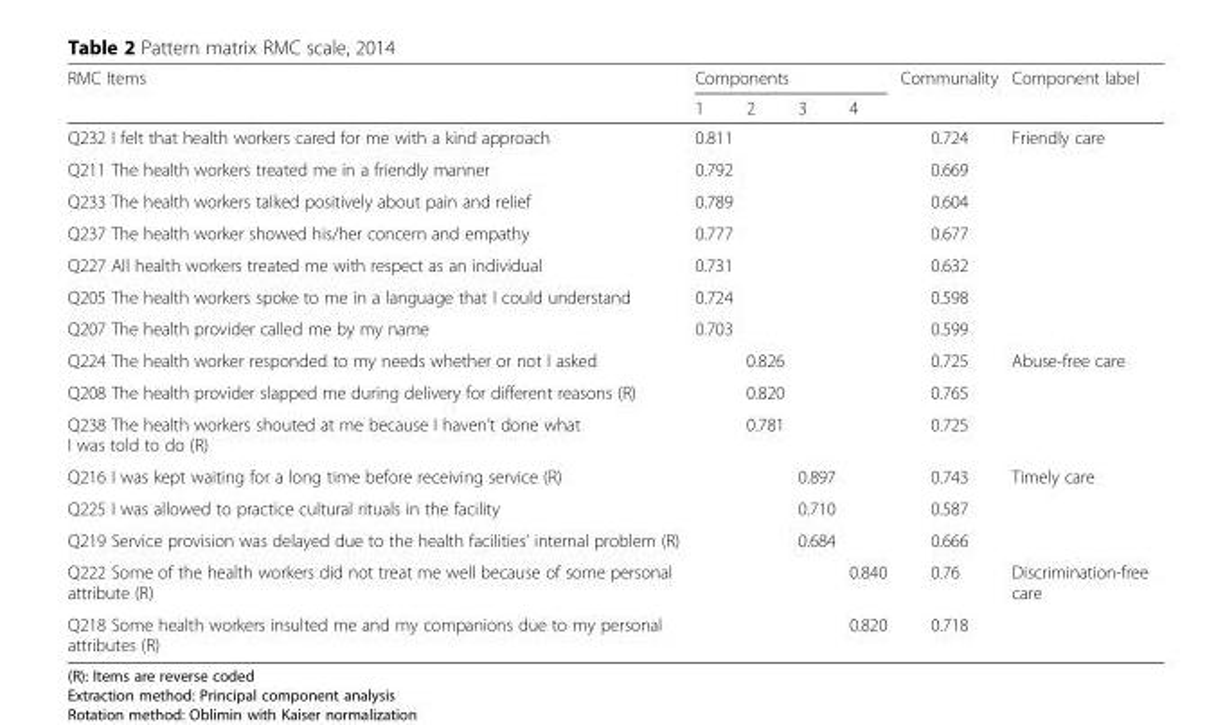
<table><thead><tr><td rowspan="2">RMC Items</td><td colspan="4">Components</td><td rowspan="2">Communality</td><td rowspan="2">Component label</td></tr><tr><td>1</td><td>2</td><td>3</td><td>4</td></tr></thead><tbody><tr><td>Q232 I felt that health workers cared for me with a kind approach</td><td>0.811</td><td></td><td></td><td></td><td>0.724</td><td rowspan="7">Friendly care</td></tr><tr><td>Q211 The health workers treated me in a friendly manner</td><td>0.792</td><td></td><td></td><td></td><td>0.669</td></tr><tr><td>Q233 The health workers talked positively about pain and relief</td><td>0.789</td><td></td><td></td><td></td><td>0.604</td></tr><tr><td>Q237 The health worker showed his/her concern and empathy</td><td>0.777</td><td></td><td></td><td></td><td>0.677</td></tr><tr><td>Q227 All health workers treated me with respect as an individual</td><td>0.731</td><td></td><td></td><td></td><td>0.632</td></tr><tr><td>Q205 The health workers spoke to me in a language that I could understand</td><td>0.724</td><td></td><td></td><td></td><td>0.598</td></tr><tr><td>Q207 The health provider called me by my name</td><td>0.703</td><td></td><td></td><td></td><td>0.599</td></tr><tr><td>Q224 The health worker responded to my needs whether or not I asked</td><td></td><td>0.826</td><td></td><td></td><td>0.725</td><td rowspan="3">Abuse-free care</td></tr><tr><td>Q208 The health provider slapped me during delivery for different reasons (R)</td><td></td><td>0.820</td><td></td><td></td><td>0.765</td></tr><tr><td>Q238 The health workers shouted at me because I haven’t done what I was told to do (R)</td><td></td><td>0.781</td><td></td><td></td><td>0.725</td></tr><tr><td>Q216 I was kept waiting for a long time before receiving service (R)</td><td></td><td></td><td>0.897</td><td></td><td>0.743</td><td rowspan="3">Timely care</td></tr><tr><td>Q225 I was allowed to practice cultural rituals in the facility</td><td></td><td></td><td>0.710</td><td></td><td>0.587</td></tr><tr><td>Q219 Service provision was delayed due to the health facilities’ internal problem (R)</td><td></td><td></td><td>0.684</td><td></td><td>0.666</td></tr><tr><td>Q222 Some of the health workers did not treat me well because of some personal attribute (R)</td><td></td><td></td><td></td><td>0.840</td><td>0.76</td><td rowspan="2">Discrimination-free care</td></tr><tr><td>Q218 Some health workers insulted me and my companions due to my personal attributes (R)</td><td></td><td></td><td></td><td>0.820</td><td>0.718</td></tr></tbody></table>